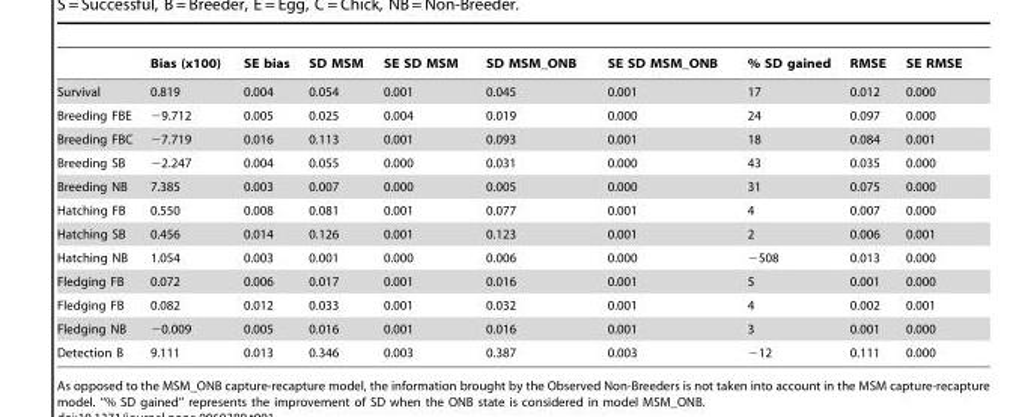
<table><thead><tr><td></td><td>Bias (x100)</td><td>SE bias</td><td>SD MSM</td><td>SE SD MSM</td><td>SD MSM_ONB</td><td>SE SD MSM_ONB</td><td>% SD gained</td><td>RMSE</td><td>SE RMSE</td></tr></thead><tbody><tr><td>Survival</td><td>0.819</td><td>0.004</td><td>0.054</td><td>0.001</td><td>0.045</td><td>0.001</td><td>17</td><td>0.012</td><td>0.000</td></tr><tr><td>Breeding FBE</td><td>−9.712</td><td>0.005</td><td>0.025</td><td>0.004</td><td>0.019</td><td>0.000</td><td>24</td><td>0.097</td><td>0.000</td></tr><tr><td>Breeding FBC</td><td>−7.719</td><td>0.016</td><td>0.113</td><td>0.001</td><td>0.093</td><td>0.001</td><td>18</td><td>0.084</td><td>0.001</td></tr><tr><td>Breeding SB</td><td>−2.247</td><td>0.004</td><td>0.055</td><td>0.000</td><td>0.031</td><td>0.000</td><td>43</td><td>0.035</td><td>0.000</td></tr><tr><td>Breeding NB</td><td>7.385</td><td>0.003</td><td>0.007</td><td>0.000</td><td>0.005</td><td>0.000</td><td>31</td><td>0.075</td><td>0.000</td></tr><tr><td>Hatching FB</td><td>0.550</td><td>0.008</td><td>0.081</td><td>0.001</td><td>0.077</td><td>0.001</td><td>4</td><td>0.007</td><td>0.000</td></tr><tr><td>Hatching SB</td><td>0.456</td><td>0.014</td><td>0.126</td><td>0.001</td><td>0.123</td><td>0.001</td><td>2</td><td>0.006</td><td>0.001</td></tr><tr><td>Hatching NB</td><td>1.054</td><td>0.003</td><td>0.001</td><td>0.000</td><td>0.006</td><td>0.000</td><td>−508</td><td>0.013</td><td>0.000</td></tr><tr><td>Fledging FB</td><td>0.072</td><td>0.006</td><td>0.017</td><td>0.001</td><td>0.016</td><td>0.001</td><td>5</td><td>0.001</td><td>0.000</td></tr><tr><td>Fledging FB</td><td>0.082</td><td>0.012</td><td>0.033</td><td>0.001</td><td>0.032</td><td>0.001</td><td>4</td><td>0.002</td><td>0.001</td></tr><tr><td>Fledging NB</td><td>−0.009</td><td>0.005</td><td>0.016</td><td>0.001</td><td>0.016</td><td>0.001</td><td>3</td><td>0.001</td><td>0.000</td></tr><tr><td>Detection B</td><td>9.111</td><td>0.013</td><td>0.346</td><td>0.003</td><td>0.387</td><td>0.003</td><td>−12</td><td>0.111</td><td>0.000</td></tr></tbody></table>